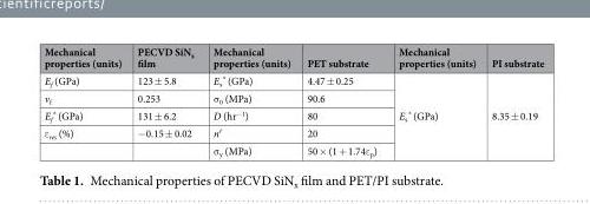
<table><thead><tr><td>Mechanical properties (units)</td><td>PECVD SiN<sub>x</sub> film</td><td>Mechanical properties (units)</td><td>PET substrate</td><td>Mechanical properties (units)</td><td>PI substrate</td></tr></thead><tbody><tr><td>E<sub>f</sub> (GPa)</td><td>123 ± 5.8</td><td>E<sub>s</sub> * (GPa)</td><td>4.47 ± 0.25</td><td rowspan="5">E<sub>s</sub> * (GPa)</td><td rowspan="5">8.35 ± 0.19</td></tr><tr><td>v<sub>f</sub></td><td>0.253</td><td>σ<sub>0</sub> (MPa)</td><td>90.6</td></tr><tr><td>E<sub>f</sub> * (GPa)</td><td>131 ± 6.2</td><td>D (hr<sup>−1</sup>)</td><td>80</td></tr><tr><td rowspan="2">ε<sub>res</sub> (%)</td><td>−0.15 ± 0.02</td><td>n′</td><td>20</td></tr><tr><td></td><td>σ<sub>y</sub> (MPa)</td><td>50 × (1 + 1.74ε<sub>p</sub>)</td></tr></tbody></table>